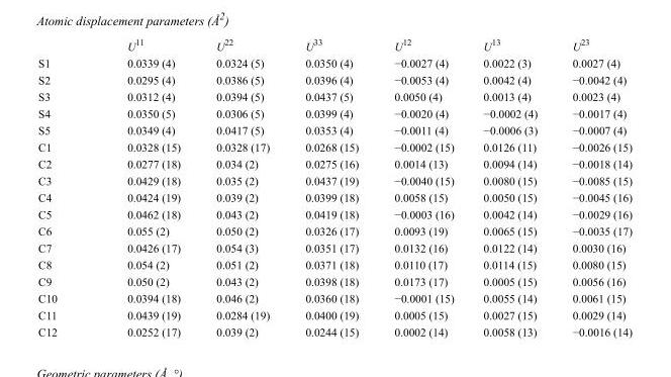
<table><thead><tr><td></td><td>U<sup>11</sup></td><td>U<sup>22</sup></td><td>U<sup>33</sup></td><td>U<sup>12</sup></td><td>U<sup>13</sup></td><td>U<sup>23</sup></td></tr></thead><tbody><tr><td>S1</td><td>0.0339 (4)</td><td>0.0324 (5)</td><td>0.0350 (4)</td><td>−0.0027 (4)</td><td>0.0022 (3)</td><td>0.0027 (4)</td></tr><tr><td>S2</td><td>0.0295 (4)</td><td>0.0386 (5)</td><td>0.0396 (4)</td><td>−0.0053 (4)</td><td>0.0042 (4)</td><td>−0.0042 (4)</td></tr><tr><td>S3</td><td>0.0312 (4)</td><td>0.0394 (5)</td><td>0.0437 (5)</td><td>0.0050 (4)</td><td>0.0013 (4)</td><td>0.0023 (4)</td></tr><tr><td>S4</td><td>0.0350 (5)</td><td>0.0306 (5)</td><td>0.0399 (4)</td><td>−0.0020 (4)</td><td>−0.0002 (4)</td><td>−0.0017 (4)</td></tr><tr><td>S5</td><td>0.0349 (4)</td><td>0.0417 (5)</td><td>0.0353 (4)</td><td>−0.0011 (4)</td><td>−0.0006 (3)</td><td>−0.0007 (4)</td></tr><tr><td>C1</td><td>0.0328 (15)</td><td>0.0328 (17)</td><td>0.0268 (15)</td><td>−0.0002 (15)</td><td>0.0126 (11)</td><td>−0.0026 (15)</td></tr><tr><td>C2</td><td>0.0277 (18)</td><td>0.034 (2)</td><td>0.0275 (16)</td><td>0.0014 (13)</td><td>0.0094 (14)</td><td>−0.0018 (14)</td></tr><tr><td>C3</td><td>0.0429 (18)</td><td>0.035 (2)</td><td>0.0437 (19)</td><td>−0.0040 (15)</td><td>0.0080 (15)</td><td>−0.0085 (15)</td></tr><tr><td>C4</td><td>0.0424 (19)</td><td>0.039 (2)</td><td>0.0399 (18)</td><td>0.0058 (15)</td><td>0.0050 (15)</td><td>−0.0045 (16)</td></tr><tr><td>C5</td><td>0.0462 (18)</td><td>0.043 (2)</td><td>0.0419 (18)</td><td>−0.0003 (16)</td><td>0.0042 (14)</td><td>−0.0029 (16)</td></tr><tr><td>C6</td><td>0.055 (2)</td><td>0.050 (2)</td><td>0.0326 (17)</td><td>0.0093 (19)</td><td>0.0065 (15)</td><td>−0.0035 (17)</td></tr><tr><td>C7</td><td>0.0426 (17)</td><td>0.054 (3)</td><td>0.0351 (17)</td><td>0.0132 (16)</td><td>0.0122 (14)</td><td>0.0030 (16)</td></tr><tr><td>C8</td><td>0.054 (2)</td><td>0.051 (2)</td><td>0.0371 (18)</td><td>0.0110 (17)</td><td>0.0114 (15)</td><td>0.0080 (15)</td></tr><tr><td>C9</td><td>0.050 (2)</td><td>0.043 (2)</td><td>0.0398 (18)</td><td>0.0173 (17)</td><td>0.0005 (15)</td><td>0.0056 (16)</td></tr><tr><td>C10</td><td>0.0394 (18)</td><td>0.046 (2)</td><td>0.0360 (18)</td><td>−0.0001 (15)</td><td>0.0055 (14)</td><td>0.0061 (15)</td></tr><tr><td>C11</td><td>0.0439 (19)</td><td>0.0284 (19)</td><td>0.0400 (19)</td><td>0.0005 (15)</td><td>0.0027 (15)</td><td>0.0029 (14)</td></tr><tr><td>C12</td><td>0.0252 (17)</td><td>0.039 (2)</td><td>0.0244 (15)</td><td>0.0002 (14)</td><td>0.0058 (13)</td><td>−0.0016 (14)</td></tr></tbody></table>